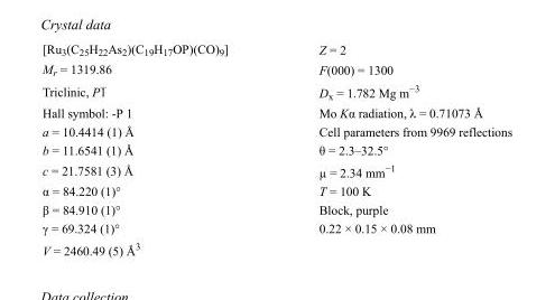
<table><tbody><tr><td>[Ru<sub>3</sub>(C<sub>25</sub>H<sub>22</sub>As<sub>2</sub>)(C<sub>19</sub>H<sub>17</sub>OP)(CO)<sub>9</sub>]</td><td>Z = 2</td></tr><tr><td>M<sub>r</sub> = 1319.86</td><td>F(000) = 1300</td></tr><tr><td>Triclinic, P1</td><td>D<sub>x</sub> = 1.782 Mg m<sup>−3</sup></td></tr><tr><td>Hall symbol: -P 1</td><td>Mo Kα radiation, λ = 0.71073 Å</td></tr><tr><td>a = 10.4414 (1) Å</td><td>Cell parameters from 9969 reflections</td></tr><tr><td>b = 11.6541 (1) Å</td><td>θ = 2.3–32.5°</td></tr><tr><td>c = 21.7581 (3) Å</td><td>µ = 2.34 mm<sup>−1</sup></td></tr><tr><td>α = 84.220 (1)°</td><td>T = 100 K</td></tr><tr><td>β = 84.910 (1)°</td><td>Block, purple</td></tr><tr><td>γ = 69.324 (1)°</td><td>0.22 × 0.15 × 0.08 mm</td></tr><tr><td>V = 2460.49 (5) Å<sup>3</sup></td><td></td></tr></tbody></table>